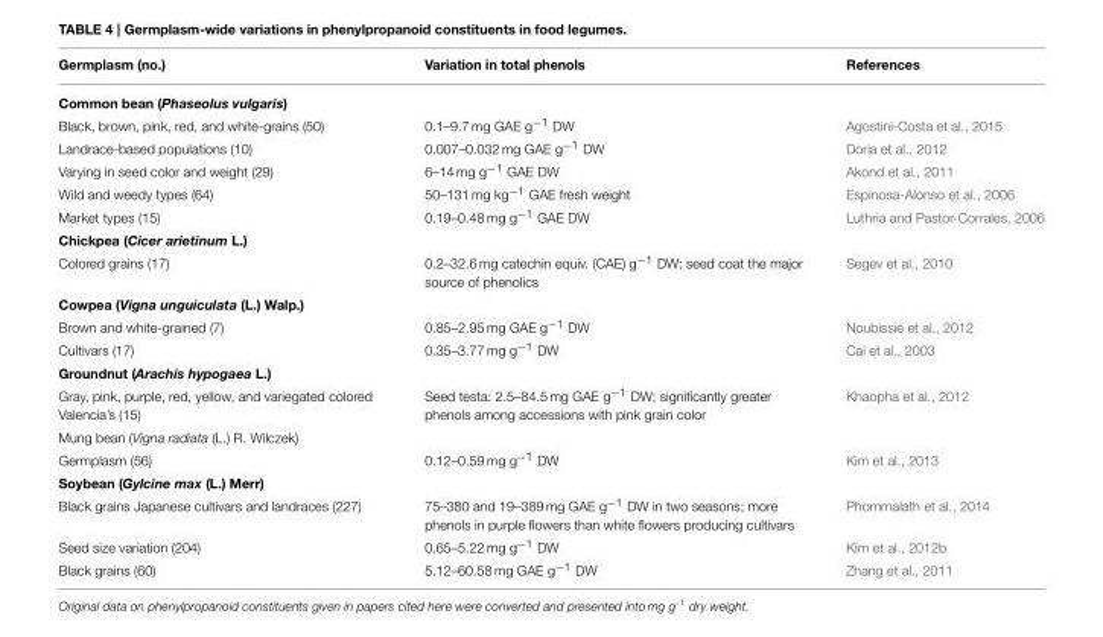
<table><thead><tr><td>Germplasm (no.)</td><td>Variation in total phenols</td><td>References</td></tr></thead><tbody><tr><td colspan="3">Common bean (Phaseolus vulgaris)</td></tr><tr><td>Black, brown, pink, red, and white-grains (50)</td><td>0.1–9.7 mg GAE g<sup>−1</sup> DW</td><td>Agostini-Costa et al., 2015</td></tr><tr><td>Landrace-based populations (10)</td><td>0.007–0.032 mg GAE g<sup>−1</sup> DW</td><td>Doria et al., 2012</td></tr><tr><td>Varying in seed color and weight (29)</td><td>6–14 mg g<sup>−1</sup> GAE DW</td><td>Akond et al., 2011</td></tr><tr><td>Wild and weedy types (64)</td><td>50–131 mg kg<sup>−1</sup> GAE fresh weight</td><td>Espinosa-Alonso et al., 2006</td></tr><tr><td>Market types (15)</td><td>0.19–0.48 mg g<sup>−1</sup> GAE DW</td><td>Luthria and Pastor-Corrales, 2006</td></tr><tr><td colspan="3">Chickpea (Cicer arietinum L.)</td></tr><tr><td>Colored grains (17)</td><td>0.2–32.6 mg catechin equiv. (CAE) g<sup>−1</sup> DW; seed coat the major source of phenolics</td><td>Segev et al., 2010</td></tr><tr><td colspan="3">Cowpea (Vigna unguiculata (L.) Walp.)</td></tr><tr><td>Brown and white-grained (7)</td><td>0.85–2.95 mg GAE g<sup>−1</sup> DW</td><td>Noubissié et al., 2012</td></tr><tr><td>Cultivars (17)</td><td>0.35–3.77 mg g<sup>−1</sup> DW</td><td>Cai et al., 2003</td></tr><tr><td colspan="3">Groundnut (Arachis hypogaea L.)</td></tr><tr><td>Gray, pink, purple, red, yellow, and variegated colored Valencia’s (15)</td><td>Seed testa: 2.5–84.5 mg GAE g<sup>−1</sup> DW; significantly greater phenols among accessions with pink grain color</td><td>Khaopha et al., 2012</td></tr><tr><td colspan="3">Mung bean (Vigna radiata (L.) R. Wilczek)</td></tr><tr><td>Germplasm (56)</td><td>0.12–0.59 mg g<sup>−1</sup> DW</td><td>Kim et al., 2013</td></tr><tr><td colspan="3">Soybean (Gylcine max (L.) Merr)</td></tr><tr><td>Black grains Japanese cultivars and landraces (227)</td><td>75–380 and 19–389 mg GAE g<sup>−1</sup> DW in two seasons; more phenols in purple flowers than white flowers producing cultivars</td><td>Phommalath et al., 2014</td></tr><tr><td>Seed size variation (204)</td><td>0.65–5.22 mg g<sup>−1</sup> DW</td><td>Kim et al., 2012b</td></tr><tr><td>Black grains (60)</td><td>5.12–60.58 mg GAE g<sup>−1</sup> DW</td><td>Zhang et al., 2011</td></tr></tbody></table>